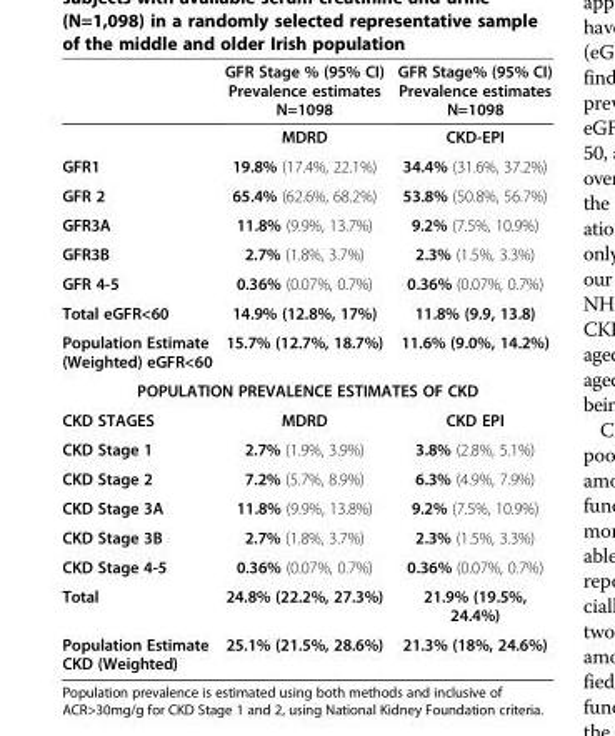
<table><thead><tr><td></td><td>GFR Stage % (95% CI) Prevalence estimates N=1098</td><td>GFR Stage% (95% CI) Prevalence estimates N=1098</td></tr></thead><tbody><tr><td></td><td>MDRD</td><td>CKD-EPI</td></tr><tr><td>GFR1</td><td>19.8% (17.4%, 22.1%)</td><td>34.4% (31.6%, 37.2%)</td></tr><tr><td>GFR 2</td><td>65.4% (62.6%, 68.2%)</td><td>53.8% (50.8%, 56.7%)</td></tr><tr><td>GFR3A</td><td>11.8% (9.9%, 13.7%)</td><td>9.2% (7.5%, 10.9%)</td></tr><tr><td>GFR3B</td><td>2.7% (1.8%, 3.7%)</td><td>2.3% (1.5%, 3.3%)</td></tr><tr><td>GFR 4-5</td><td>0.36% (0.07%, 0.7%)</td><td>0.36% (0.07%, 0.7%)</td></tr><tr><td>Total eGFR&lt;60</td><td>14.9% (12.8%, 17%)</td><td>11.8% (9.9, 13.8)</td></tr><tr><td>Population Estimate (Weighted) eGFR&lt;60</td><td>15.7% (12.7%, 18.7%)</td><td>11.6% (9.0%, 14.2%)</td></tr><tr><td colspan="3">POPULATION PREVALENCE ESTIMATES OF CKD</td></tr><tr><td>CKD STAGES</td><td>MDRD</td><td>CKD EPI</td></tr><tr><td>CKD Stage 1</td><td>2.7% (1.9%, 3.9%)</td><td>3.8% (2.8%, 5.1%)</td></tr><tr><td>CKD Stage 2</td><td>7.2% (5.7%, 8.9%)</td><td>6.3% (4.9%, 7.9%)</td></tr><tr><td>CKD Stage 3A</td><td>11.8% (9.9%, 13.8%)</td><td>9.2% (7.5%, 10.9%)</td></tr><tr><td>CKD Stage 3B</td><td>2.7% (1.8%, 3.7%)</td><td>2.3% (1.5%, 3.3%)</td></tr><tr><td>CKD Stage 4-5</td><td>0.36% (0.07%, 0.7%)</td><td>0.36% (0.07%, 0.7%)</td></tr><tr><td>Total</td><td>24.8% (22.2%, 27.3%)</td><td>21.9% (19.5%, 24.4%)</td></tr><tr><td>Population Estimate CKD (Weighted)</td><td>25.1% (21.5%, 28.6%)</td><td>21.3% (18%, 24.6%)</td></tr></tbody></table>